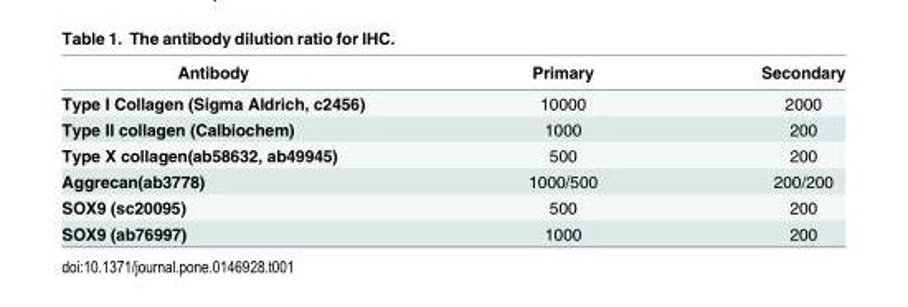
<table><thead><tr><td>Antibody</td><td>Primary</td><td>Secondary</td></tr></thead><tbody><tr><td>Type I Collagen (Sigma Aldrich, c2456)</td><td>10000</td><td>2000</td></tr><tr><td>Type II collagen (Calbiochem)</td><td>1000</td><td>200</td></tr><tr><td>Type X collagen(ab58632, ab49945)</td><td>500</td><td>200</td></tr><tr><td>Aggrecan(ab3778)</td><td>1000/500</td><td>200/200</td></tr><tr><td>SOX9 (sc20095)</td><td>500</td><td>200</td></tr><tr><td>SOX9 (ab76997)</td><td>1000</td><td>200</td></tr></tbody></table>